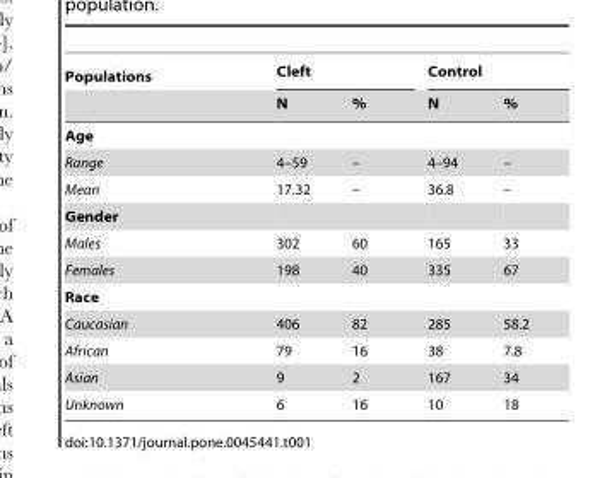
<table><thead><tr><td rowspan="2">Populations</td><td colspan="2">Cleft</td><td colspan="2">Control</td></tr><tr><td>N</td><td>%</td><td>N</td><td>%</td></tr></thead><tbody><tr><td colspan="5">Age</td></tr><tr><td>Range</td><td>4–59</td><td>–</td><td>4–94</td><td>–</td></tr><tr><td>Mean</td><td>17.32</td><td>–</td><td>36.8</td><td>–</td></tr><tr><td colspan="5">Gender</td></tr><tr><td>Males</td><td>302</td><td>60</td><td>165</td><td>33</td></tr><tr><td>Females</td><td>198</td><td>40</td><td>335</td><td>67</td></tr><tr><td colspan="5">Race</td></tr><tr><td>Caucasian</td><td>406</td><td>82</td><td>285</td><td>58.2</td></tr><tr><td>African</td><td>79</td><td>16</td><td>38</td><td>7.8</td></tr><tr><td>Asian</td><td>9</td><td>2</td><td>167</td><td>34</td></tr><tr><td>Unknown</td><td>6</td><td>16</td><td>10</td><td>18</td></tr></tbody></table>